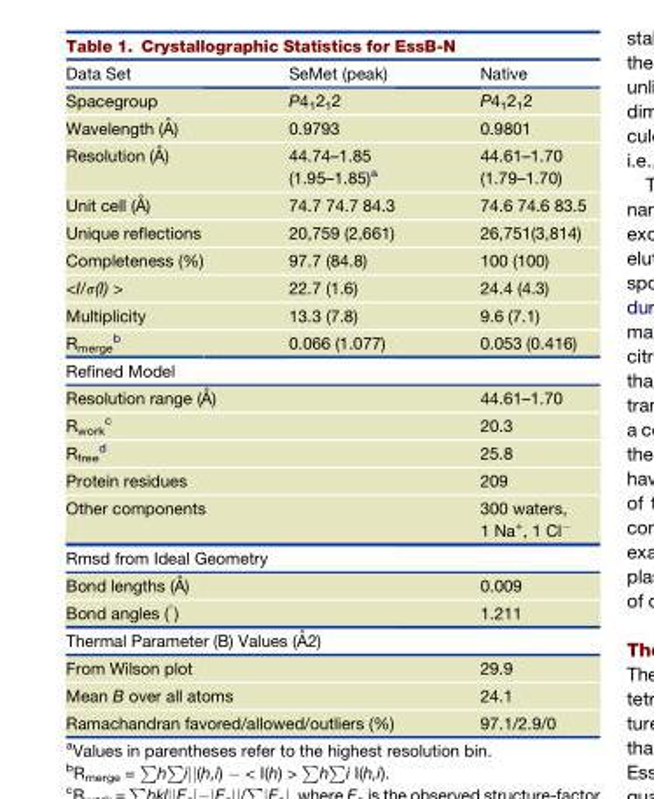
<table><thead><tr><td>Data Set</td><td>SeMet (peak)</td><td>Native</td></tr></thead><tbody><tr><td>Spacegroup</td><td>P4<sub>1</sub>2<sub>1</sub>2</td><td>P4<sub>1</sub>2<sub>1</sub>2</td></tr><tr><td>Wavelength (A˚ )</td><td>0.9793</td><td>0.9801</td></tr><tr><td>Resolution (A˚ )</td><td>44.74–1.85 (1.95–1.85)<sup>a</sup></td><td>44.61–1.70 (1.79–1.70)</td></tr><tr><td>Unit cell (A˚ )</td><td>74.7 74.7 84.3</td><td>74.6 74.6 83.5</td></tr><tr><td>Unique reflections</td><td>20,759 (2,661)</td><td>26,751(3,814)</td></tr><tr><td>Completeness (%)</td><td>97.7 (84.8)</td><td>100 (100)</td></tr><tr><td>&lt;I/σ(I) &gt;</td><td>22.7 (1.6)</td><td>24.4 (4.3)</td></tr><tr><td>Multiplicity</td><td>13.3 (7.8)</td><td>9.6 (7.1)</td></tr><tr><td>R<sub>merge</sub> <sup>b</sup></td><td>0.066 (1.077)</td><td>0.053 (0.416)</td></tr><tr><td colspan="3">Refined Model</td></tr><tr><td colspan="2">Resolution range (A˚ )</td><td>44.61–1.70</td></tr><tr><td colspan="2">R<sub>work</sub> <sup>c</sup></td><td>20.3</td></tr><tr><td colspan="2">R<sub>free</sub> <sup>d</sup></td><td>25.8</td></tr><tr><td colspan="2">Protein residues</td><td>209</td></tr><tr><td colspan="2">Other components</td><td>300 waters, 1 Na<sup>+</sup>, 1 Cl<sup>−</sup></td></tr><tr><td colspan="3">Rmsd from Ideal Geometry</td></tr><tr><td colspan="2">Bond lengths (A˚ )</td><td>0.009</td></tr><tr><td colspan="2">Bond angles ( °)</td><td>1.211</td></tr><tr><td colspan="3">Thermal Parameter (B) Values (A˚ 2)</td></tr><tr><td colspan="2">From Wilson plot</td><td>29.9</td></tr><tr><td colspan="2">Mean B over all atoms</td><td>24.1</td></tr><tr><td colspan="2">Ramachandran favored/allowed/outliers (%)</td><td>97.1/2.9/0</td></tr></tbody></table>